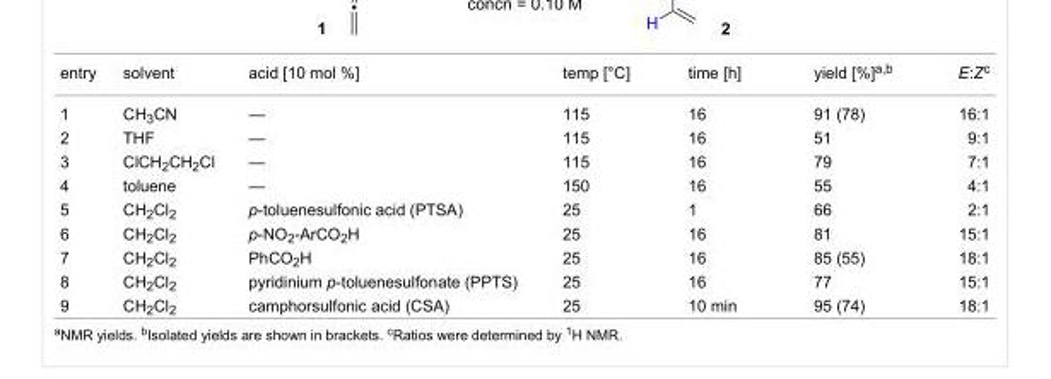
<table><tbody><tr><td>entry</td><td>solvent</td><td>acid [10 mol %]</td><td>temp [°C]</td><td>time [h]</td><td>yield [%]<sup>a,b</sup></td><td>E:Z<sup>c</sup></td></tr><tr><td>1</td><td>CH<sub>3</sub>CN</td><td>—</td><td>115</td><td>16</td><td>91 (78)</td><td>16:1</td></tr><tr><td>2</td><td>THF</td><td>—</td><td>115</td><td>16</td><td>51</td><td>9:1</td></tr><tr><td>3</td><td>ClCH<sub>2</sub>CH<sub>2</sub>Cl</td><td>—</td><td>115</td><td>16</td><td>79</td><td>7:1</td></tr><tr><td>4</td><td>toluene</td><td>—</td><td>150</td><td>16</td><td>55</td><td>4:1</td></tr><tr><td>5</td><td>CH<sub>2</sub>Cl<sub>2</sub></td><td>p-toluenesulfonic acid (PTSA)</td><td>25</td><td>1</td><td>66</td><td>2:1</td></tr><tr><td>6</td><td>CH<sub>2</sub>Cl<sub>2</sub></td><td>p-NO<sub>2</sub>-ArCO<sub>2</sub>H</td><td>25</td><td>16</td><td>81</td><td>15:1</td></tr><tr><td>7</td><td>CH<sub>2</sub>Cl<sub>2</sub></td><td>PhCO<sub>2</sub>H</td><td>25</td><td>16</td><td>85 (55)</td><td>18:1</td></tr><tr><td>8</td><td>CH<sub>2</sub>Cl<sub>2</sub></td><td>pyridinium p-toluenesulfonate (PPTS)</td><td>25</td><td>16</td><td>77</td><td>15:1</td></tr><tr><td>9</td><td>CH<sub>2</sub>Cl<sub>2</sub></td><td>camphorsulfonic acid (CSA)</td><td>25</td><td>10 min</td><td>95 (74)</td><td>18:1</td></tr></tbody></table>